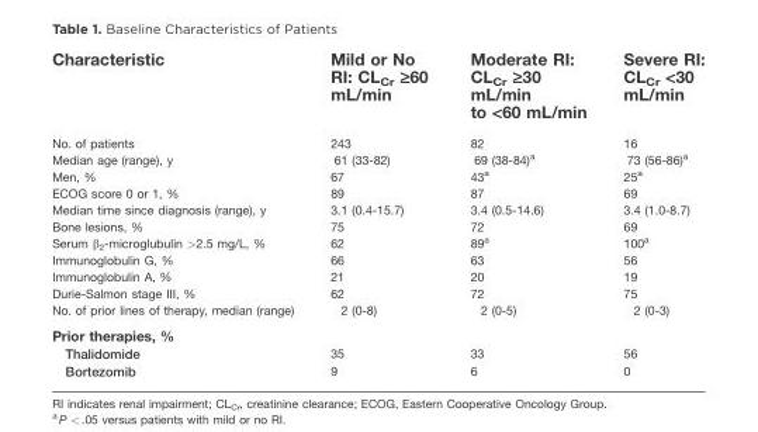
<table><thead><tr><td>Characteristic</td><td>Mild or No RI: CLCr ‡60 mL/min</td><td>Moderate RI: CLCr ‡30 mL/min to &lt;60 mL/min</td><td>Severe RI: CL<sub>Cr</sub> &lt;30 mL/min</td></tr></thead><tbody><tr><td>No. of patients</td><td>243</td><td>82</td><td>16</td></tr><tr><td>Median age (range), y</td><td>61 (33-82)</td><td>69 (38-84)<sup>a</sup></td><td>73 (56-86)<sup>a</sup></td></tr><tr><td>Men, %</td><td>67</td><td>43<sup>a</sup></td><td>25<sup>a</sup></td></tr><tr><td>ECOG score 0 or 1, %</td><td>89</td><td>87</td><td>69</td></tr><tr><td>Median time since diagnosis (range), y</td><td>3.1 (0.4-15.7)</td><td>3.4 (0.5-14.6)</td><td>3.4 (1.0-8.7)</td></tr><tr><td>Bone lesions, %</td><td>75</td><td>72</td><td>69</td></tr><tr><td>Serum β<sub>2</sub>-microglubulin &gt;2.5 mg/L, %</td><td>62</td><td>89<sup>a</sup></td><td>100<sup>a</sup></td></tr><tr><td>Immunoglobulin G, %</td><td>66</td><td>63</td><td>56</td></tr><tr><td>Immunoglobulin A, %</td><td>21</td><td>20</td><td>19</td></tr><tr><td>Durie-Salmon stage III, %</td><td>62</td><td>72</td><td>75</td></tr><tr><td>No. of prior lines of therapy, median (range)</td><td>2 (0-8)</td><td>2 (0-5)</td><td>2 (0-3)</td></tr><tr><td colspan="4">Prior therapies, %</td></tr><tr><td>Thalidomide</td><td>35</td><td>33</td><td>56</td></tr><tr><td>Bortezomib</td><td>9</td><td>6</td><td>0</td></tr></tbody></table>